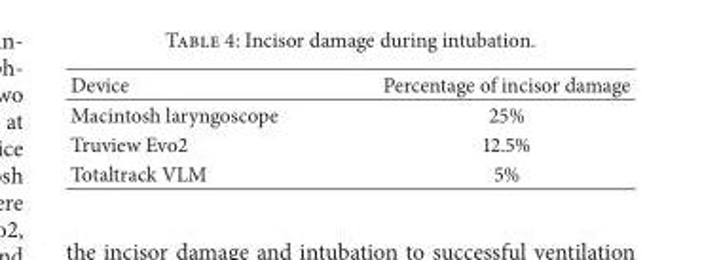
<table><thead><tr><td>Device</td><td>Percentage of incisor damage</td></tr></thead><tbody><tr><td>Macintosh laryngoscope</td><td>25%</td></tr><tr><td>Truview Evo2</td><td>12.5%</td></tr><tr><td>Totaltrack VLM</td><td>5%</td></tr></tbody></table>